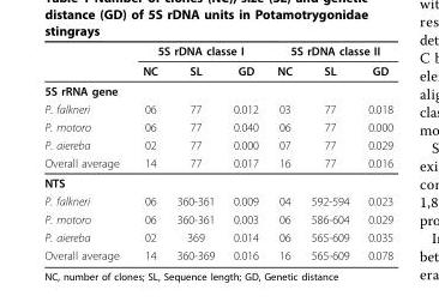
<table><thead><tr><td rowspan="2"></td><td colspan="3">5S rDNA classe I</td><td colspan="3">5S rDNA classe II</td></tr><tr><td>NC</td><td>SL</td><td>GD</td><td>NC</td><td>SL</td><td>GD</td></tr></thead><tbody><tr><td colspan="7">5S rRNA gene</td></tr><tr><td>P. falkneri</td><td>06</td><td>77</td><td>0.012</td><td>03</td><td>77</td><td>0.018</td></tr><tr><td>P. motoro</td><td>06</td><td>77</td><td>0.040</td><td>06</td><td>77</td><td>0.000</td></tr><tr><td>P. aiereba</td><td>02</td><td>77</td><td>0.000</td><td>07</td><td>77</td><td>0.029</td></tr><tr><td>Overall average</td><td>14</td><td>77</td><td>0.017</td><td>16</td><td>77</td><td>0.016</td></tr><tr><td colspan="7">NTS</td></tr><tr><td>P. falkneri</td><td>06</td><td>360-361</td><td>0.009</td><td>04</td><td>592-594</td><td>0.023</td></tr><tr><td>P. motoro</td><td>06</td><td>360-361</td><td>0.003</td><td>06</td><td>586-604</td><td>0.029</td></tr><tr><td>P. aiereba</td><td>02</td><td>369</td><td>0.014</td><td>06</td><td>565-609</td><td>0.035</td></tr><tr><td>Overall average</td><td>14</td><td>360-369</td><td>0.016</td><td>16</td><td>565-609</td><td>0.078</td></tr></tbody></table>